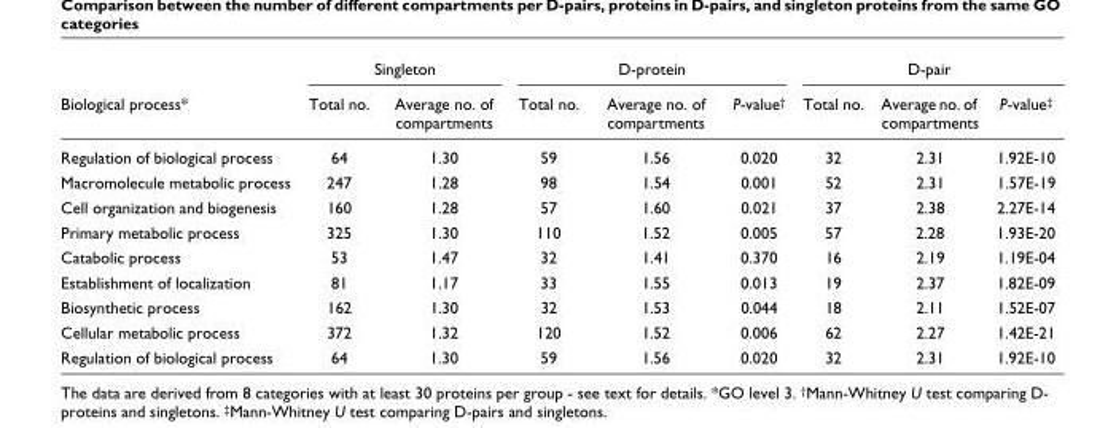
<table><thead><tr><td rowspan="2">Biological process*</td><td colspan="2">Singleton</td><td colspan="3">D-protein</td><td colspan="3">D-pair</td></tr><tr><td>Total no.</td><td>Average no. of compartments</td><td>Total no.</td><td>Average no. of compartments</td><td>P-value<sup>†</sup></td><td>Total no.</td><td>Average no. of compartments</td><td>P-value<sup>‡</sup></td></tr></thead><tbody><tr><td>Regulation of biological process</td><td>64</td><td>1.30</td><td>59</td><td>1.56</td><td>0.020</td><td>32</td><td>2.31</td><td>1.92E-10</td></tr><tr><td>Macromolecule metabolic process</td><td>247</td><td>1.28</td><td>98</td><td>1.54</td><td>0.001</td><td>52</td><td>2.31</td><td>1.57E-19</td></tr><tr><td>Cell organization and biogenesis</td><td>160</td><td>1.28</td><td>57</td><td>1.60</td><td>0.021</td><td>37</td><td>2.38</td><td>2.27E-14</td></tr><tr><td>Primary metabolic process</td><td>325</td><td>1.30</td><td>110</td><td>1.52</td><td>0.005</td><td>57</td><td>2.28</td><td>1.93E-20</td></tr><tr><td>Catabolic process</td><td>53</td><td>1.47</td><td>32</td><td>1.41</td><td>0.370</td><td>16</td><td>2.19</td><td>1.19E-04</td></tr><tr><td>Establishment of localization</td><td>81</td><td>1.17</td><td>33</td><td>1.55</td><td>0.013</td><td>19</td><td>2.37</td><td>1.82E-09</td></tr><tr><td>Biosynthetic process</td><td>162</td><td>1.30</td><td>32</td><td>1.53</td><td>0.044</td><td>18</td><td>2.11</td><td>1.52E-07</td></tr><tr><td>Cellular metabolic process</td><td>372</td><td>1.32</td><td>120</td><td>1.52</td><td>0.006</td><td>62</td><td>2.27</td><td>1.42E-21</td></tr><tr><td>Regulation of biological process</td><td>64</td><td>1.30</td><td>59</td><td>1.56</td><td>0.020</td><td>32</td><td>2.31</td><td>1.92E-10</td></tr></tbody></table>